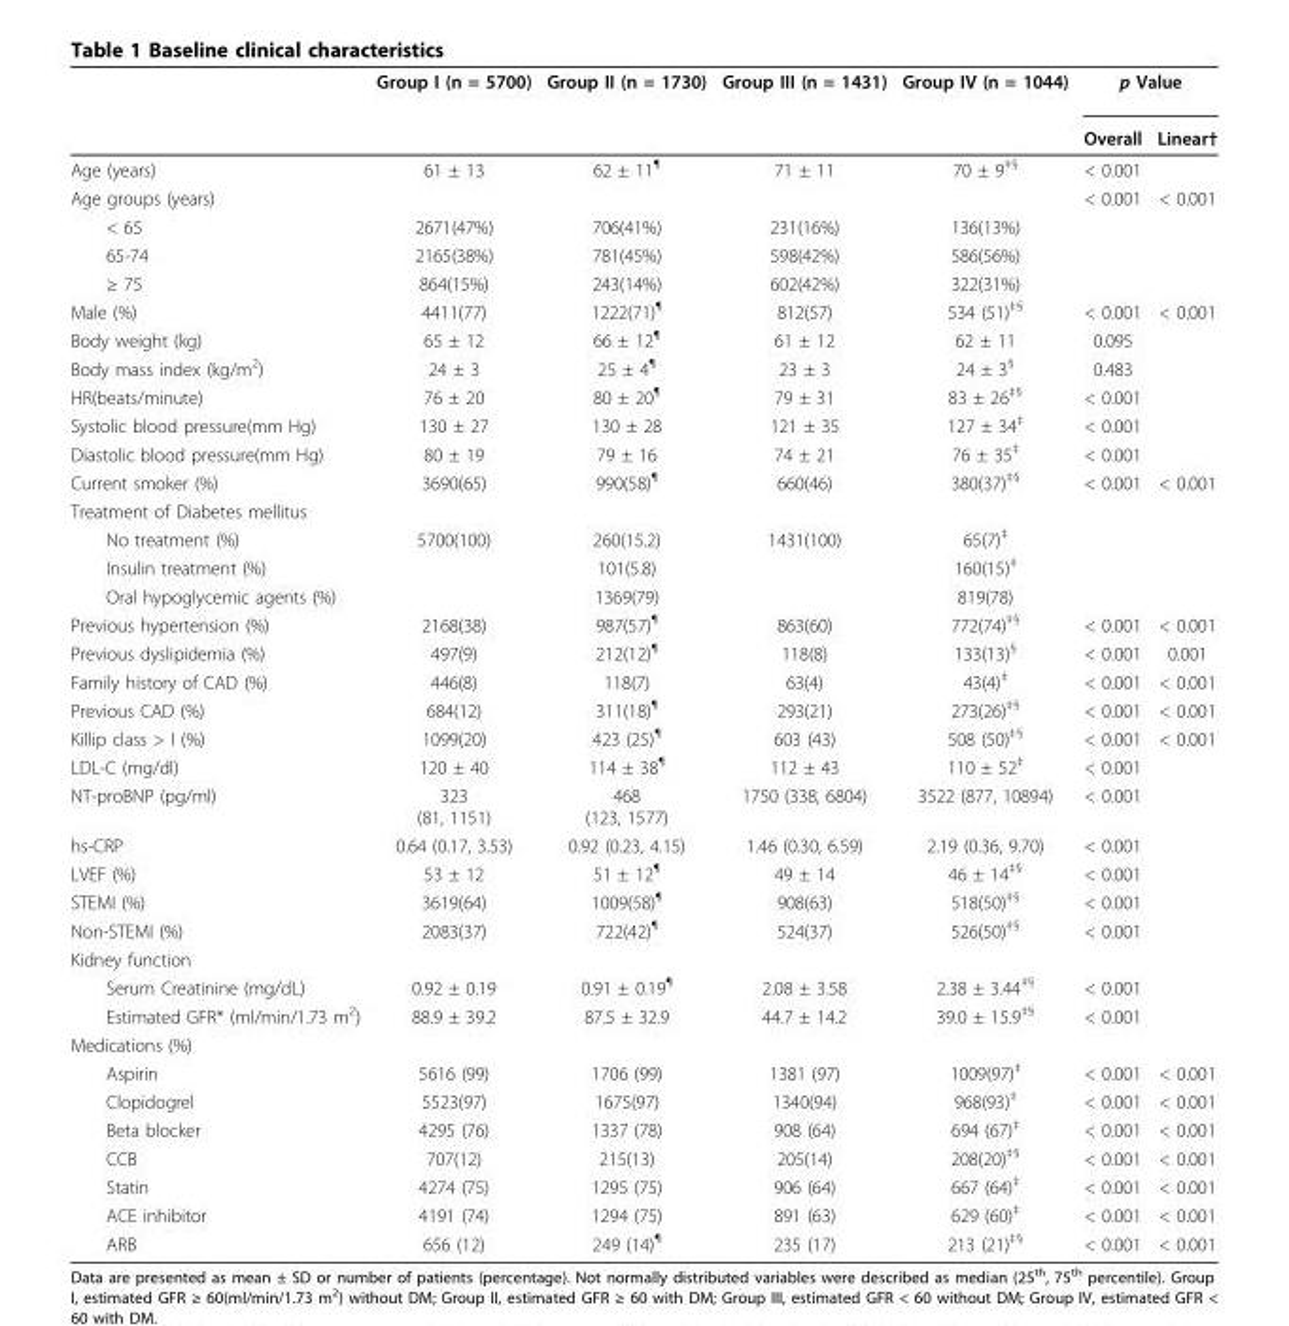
<table><thead><tr><td rowspan="2"></td><td rowspan="2">Group I (n = 5700)</td><td rowspan="2">Group II (n = 1730)</td><td rowspan="2">Group III (n = 1431)</td><td rowspan="2">Group IV (n = 1044)</td><td colspan="2">p Value</td></tr><tr><td>Overall</td><td>Linear†</td></tr></thead><tbody><tr><td>Age (years)</td><td>61 ± 13</td><td>62 ± 11<sup>¶</sup></td><td>71 ± 11</td><td>70 ± 9<sup>‡§</sup></td><td>&lt; 0.001</td><td></td></tr><tr><td>Age groups (years)</td><td></td><td></td><td></td><td></td><td>&lt; 0.001</td><td>&lt; 0.001</td></tr><tr><td>&lt; 65</td><td>2671(47%)</td><td>706(41%)</td><td>231(16%)</td><td>136(13%)</td><td></td><td></td></tr><tr><td>65-74</td><td>2165(38%)</td><td>781(45%)</td><td>598(42%)</td><td>586(56%)</td><td></td><td></td></tr><tr><td>≥ 75</td><td>864(15%)</td><td>243(14%)</td><td>602(42%)</td><td>322(31%)</td><td></td><td></td></tr><tr><td>Male (%)</td><td>4411(77)</td><td>1222(71)<sup>¶</sup></td><td>812(57)</td><td>534 (51)<sup>‡§</sup></td><td>&lt; 0.001</td><td>&lt; 0.001</td></tr><tr><td>Body weight (kg)</td><td>65 ± 12</td><td>66 ± 12<sup>¶</sup></td><td>61 ± 12</td><td>62 ± 11</td><td>0.095</td><td></td></tr><tr><td>Body mass index (kg/m<sup>2</sup>)</td><td>24 ± 3</td><td>25 ± 4<sup>¶</sup></td><td>23 ± 3</td><td>24 ± 3<sup>§</sup></td><td>0.483</td><td></td></tr><tr><td>HR(beats/minute)</td><td>76 ± 20</td><td>80 ± 20<sup>¶</sup></td><td>79 ± 31</td><td>83 ± 26<sup>‡§</sup></td><td>&lt; 0.001</td><td></td></tr><tr><td>Systolic blood pressure(mm Hg)</td><td>130 ± 27</td><td>130 ± 28</td><td>121 ± 35</td><td>127 ± 34<sup>‡</sup></td><td>&lt; 0.001</td><td></td></tr><tr><td>Diastolic blood pressure(mm Hg)</td><td>80 ± 19</td><td>79 ± 16</td><td>74 ± 21</td><td>76 ± 35<sup>‡</sup></td><td>&lt; 0.001</td><td></td></tr><tr><td>Current smoker (%)</td><td>3690(65)</td><td>990(58)<sup>¶</sup></td><td>660(46)</td><td>380(37)<sup>‡§</sup></td><td>&lt; 0.001</td><td>&lt; 0.001</td></tr><tr><td colspan="7">Treatment of Diabetes mellitus</td></tr><tr><td>No treatment (%)</td><td>5700(100)</td><td>260(15.2)</td><td>1431(100)</td><td>65(7)<sup>‡</sup></td><td></td><td></td></tr><tr><td>Insulin treatment (%)</td><td></td><td>101(5.8)</td><td></td><td>160(15)<sup>‡</sup></td><td></td><td></td></tr><tr><td>Oral hypoglycemic agents (%)</td><td></td><td>1369(79)</td><td></td><td>819(78)</td><td></td><td></td></tr><tr><td>Previous hypertension (%)</td><td>2168(38)</td><td>987(57)<sup>¶</sup></td><td>863(60)</td><td>772(74)<sup>‡§</sup></td><td>&lt; 0.001</td><td>&lt; 0.001</td></tr><tr><td>Previous dyslipidemia (%)</td><td>497(9)</td><td>212(12)<sup>¶</sup></td><td>118(8)</td><td>133(13)<sup>§</sup></td><td>&lt; 0.001</td><td>0.001</td></tr><tr><td>Family history of CAD (%)</td><td>446(8)</td><td>118(7)</td><td>63(4)</td><td>43(4)<sup>‡</sup></td><td>&lt; 0.001</td><td>&lt; 0.001</td></tr><tr><td>Previous CAD (%)</td><td>684(12)</td><td>311(18)<sup>¶</sup></td><td>293(21)</td><td>273(26)<sup>‡§</sup></td><td>&lt; 0.001</td><td>&lt; 0.001</td></tr><tr><td>Killip class &gt; I (%)</td><td>1099(20)</td><td>423 (25)<sup>¶</sup></td><td>603 (43)</td><td>508 (50)<sup>‡§</sup></td><td>&lt; 0.001</td><td>&lt; 0.001</td></tr><tr><td>LDL-C (mg/dl)</td><td>120 ± 40</td><td>114 ± 38<sup>¶</sup></td><td>112 ± 43</td><td>110 ± 52<sup>‡</sup></td><td>&lt; 0.001</td><td></td></tr><tr><td>NT-proBNP (pg/ml)</td><td>323 (81, 1151)</td><td>468 (123, 1577)</td><td>1750 (338, 6804)</td><td>3522 (877, 10894)</td><td>&lt; 0.001</td><td></td></tr><tr><td>hs-CRP</td><td>0.64 (0.17, 3.53)</td><td>0.92 (0.23, 4.15)</td><td>1.46 (0.30, 6.59)</td><td>2.19 (0.36, 9.70)</td><td>&lt; 0.001</td><td></td></tr><tr><td>LVEF (%)</td><td>53 ± 12</td><td>51 ± 12<sup>¶</sup></td><td>49 ± 14</td><td>46 ± 14<sup>‡§</sup></td><td>&lt; 0.001</td><td></td></tr><tr><td>STEMI (%)</td><td>3619(64)</td><td>1009(58)<sup>¶</sup></td><td>908(63)</td><td>518(50)<sup>‡§</sup></td><td>&lt; 0.001</td><td></td></tr><tr><td>Non-STEMI (%)</td><td>2083(37)</td><td>722(42)<sup>¶</sup></td><td>524(37)</td><td>526(50)<sup>‡§</sup></td><td>&lt; 0.001</td><td></td></tr><tr><td colspan="7">Kidney function</td></tr><tr><td>Serum Creatinine (mg/dL)</td><td>0.92 ± 0.19</td><td>0.91 ± 0.19<sup>¶</sup></td><td>2.08 ± 3.58</td><td>2.38 ± 3.44<sup>‡§</sup></td><td>&lt; 0.001</td><td></td></tr><tr><td>Estimated GFR* (ml/min/1.73 m<sup>2</sup>)</td><td>88.9 ± 39.2</td><td>87.5 ± 32.9</td><td>44.7 ± 14.2</td><td>39.0 ± 15.9<sup>‡§</sup></td><td>&lt; 0.001</td><td></td></tr><tr><td colspan="7">Medications (%)</td></tr><tr><td>Aspirin</td><td>5616 (99)</td><td>1706 (99)</td><td>1381 (97)</td><td>1009(97)<sup>‡</sup></td><td>&lt; 0.001</td><td>&lt; 0.001</td></tr><tr><td>Clopidogrel</td><td>5523(97)</td><td>1675(97)</td><td>1340(94)</td><td>968(93)<sup>‡</sup></td><td>&lt; 0.001</td><td>&lt; 0.001</td></tr><tr><td>Beta blocker</td><td>4295 (76)</td><td>1337 (78)</td><td>908 (64)</td><td>694 (67)<sup>‡</sup></td><td>&lt; 0.001</td><td>&lt; 0.001</td></tr><tr><td>CCB</td><td>707(12)</td><td>215(13)</td><td>205(14)</td><td>208(20)<sup>‡§</sup></td><td>&lt; 0.001</td><td>&lt; 0.001</td></tr><tr><td>Statin</td><td>4274 (75)</td><td>1295 (75)</td><td>906 (64)</td><td>667 (64)<sup>‡</sup></td><td>&lt; 0.001</td><td>&lt; 0.001</td></tr><tr><td>ACE inhibitor</td><td>4191 (74)</td><td>1294 (75)</td><td>891 (63)</td><td>629 (60)<sup>‡</sup></td><td>&lt; 0.001</td><td>&lt; 0.001</td></tr><tr><td>ARB</td><td>656 (12)</td><td>249 (14)<sup>¶</sup></td><td>235 (17)</td><td>213 (21)<sup>‡§</sup></td><td>&lt; 0.001</td><td>&lt; 0.001</td></tr></tbody></table>